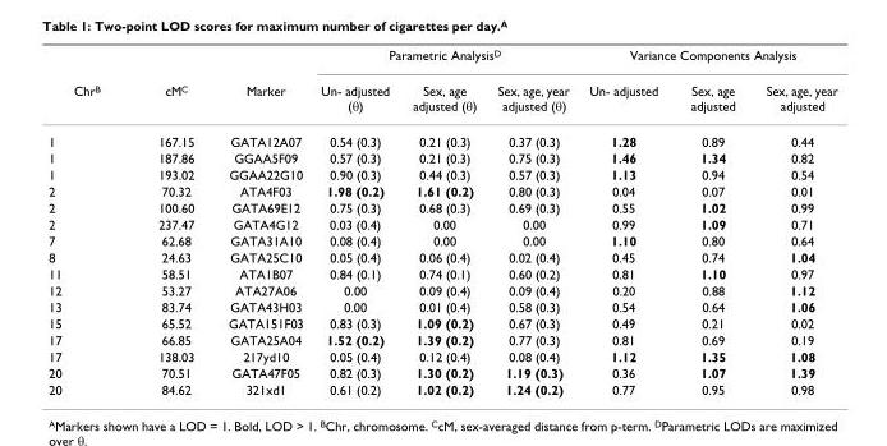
<table><thead><tr><td rowspan="2">ChrB</td><td rowspan="2">cMC</td><td rowspan="2">Marker</td><td colspan="3">Parametric AnalysisD</td><td colspan="3">Variance Components Analysis</td></tr><tr><td>Un- adjusted (θ)</td><td>Sex, age adjusted (θ)</td><td>Sex, age, year adjusted (θ)</td><td>Un- adjusted</td><td>Sex, age adjusted</td><td>Sex, age, year adjusted</td></tr></thead><tbody><tr><td>1</td><td>167.15</td><td>GATA12A07</td><td>0.54 (0.3)</td><td>0.21 (0.3)</td><td>0.37 (0.3)</td><td>1.28</td><td>0.89</td><td>0.44</td></tr><tr><td>1</td><td>187.86</td><td>GGAA5F09</td><td>0.57 (0.3)</td><td>0.21 (0.3)</td><td>0.75 (0.3)</td><td>1.46</td><td>1.34</td><td>0.82</td></tr><tr><td>1</td><td>193.02</td><td>GGAA22G10</td><td>0.90 (0.3)</td><td>0.44 (0.3)</td><td>0.57 (0.3)</td><td>1.13</td><td>0.94</td><td>0.54</td></tr><tr><td>2</td><td>70.32</td><td>ATA4F03</td><td>1.98 (0.2)</td><td>1.61 (0.2)</td><td>0.80 (0.3)</td><td>0.04</td><td>0.07</td><td>0.01</td></tr><tr><td>2</td><td>100.60</td><td>GATA69E12</td><td>0.75 (0.3)</td><td>0.68 (0.3)</td><td>0.69 (0.3)</td><td>0.55</td><td>1.02</td><td>0.99</td></tr><tr><td>2</td><td>237.47</td><td>GATA4G12</td><td>0.03 (0.4)</td><td>0.00</td><td>0.00</td><td>0.99</td><td>1.09</td><td>0.71</td></tr><tr><td>7</td><td>62.68</td><td>GATA31A10</td><td>0.08 (0.4)</td><td>0.00</td><td>0.00</td><td>1.10</td><td>0.80</td><td>0.64</td></tr><tr><td>8</td><td>24.63</td><td>GATA25C10</td><td>0.05 (0.4)</td><td>0.06 (0.4)</td><td>0.02 (0.4)</td><td>0.45</td><td>0.74</td><td>1.04</td></tr><tr><td>11</td><td>58.51</td><td>ATA1B07</td><td>0.84 (0.1)</td><td>0.74 (0.1)</td><td>0.60 (0.2)</td><td>0.81</td><td>1.10</td><td>0.97</td></tr><tr><td>12</td><td>53.27</td><td>ATA27A06</td><td>0.00</td><td>0.09 (0.4)</td><td>0.09 (0.4)</td><td>0.20</td><td>0.88</td><td>1.12</td></tr><tr><td>13</td><td>83.74</td><td>GATA43H03</td><td>0.00</td><td>0.01 (0.4)</td><td>0.58 (0.3)</td><td>0.54</td><td>0.64</td><td>1.06</td></tr><tr><td>15</td><td>65.52</td><td>GATA151F03</td><td>0.83 (0.3)</td><td>1.09 (0.2)</td><td>0.67 (0.3)</td><td>0.49</td><td>0.21</td><td>0.02</td></tr><tr><td>17</td><td>66.85</td><td>GATA25A04</td><td>1.52 (0.2)</td><td>1.39 (0.2)</td><td>0.77 (0.3)</td><td>0.81</td><td>0.69</td><td>0.19</td></tr><tr><td>17</td><td>138.03</td><td>217yd10</td><td>0.05 (0.4)</td><td>0.12 (0.4)</td><td>0.08 (0.4)</td><td>1.12</td><td>1.35</td><td>1.08</td></tr><tr><td>20</td><td>70.51</td><td>GATA47F05</td><td>0.82 (0.3)</td><td>1.30 (0.2)</td><td>1.19 (0.3)</td><td>0.36</td><td>1.07</td><td>1.39</td></tr><tr><td>20</td><td>84.62</td><td>321xd1</td><td>0.61 (0.2)</td><td>1.02 (0.2)</td><td>1.24 (0.2)</td><td>0.77</td><td>0.95</td><td>0.98</td></tr></tbody></table>